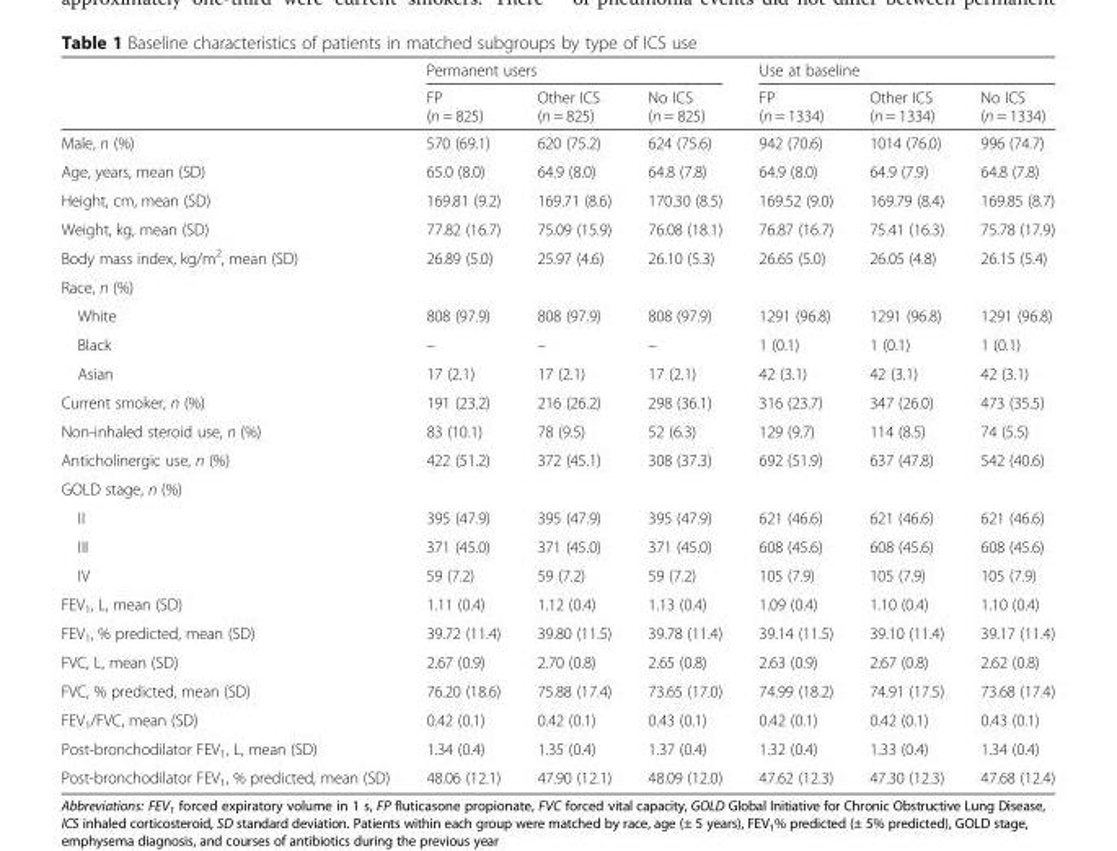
<table><thead><tr><td rowspan="2"></td><td colspan="3">Permanent users</td><td colspan="3">Use at baseline</td></tr><tr><td>FP (n = 825)</td><td>Other ICS (n = 825)</td><td>No ICS (n = 825)</td><td>FP (n = 1334)</td><td>Other ICS (n = 1334)</td><td>No ICS (n = 1334)</td></tr></thead><tbody><tr><td>Male, n (%)</td><td>570 (69.1)</td><td>620 (75.2)</td><td>624 (75.6)</td><td>942 (70.6)</td><td>1014 (76.0)</td><td>996 (74.7)</td></tr><tr><td>Age, years, mean (SD)</td><td>65.0 (8.0)</td><td>64.9 (8.0)</td><td>64.8 (7.8)</td><td>64.9 (8.0)</td><td>64.9 (7.9)</td><td>64.8 (7.8)</td></tr><tr><td>Height, cm, mean (SD)</td><td>169.81 (9.2)</td><td>169.71 (8.6)</td><td>170.30 (8.5)</td><td>169.52 (9.0)</td><td>169.79 (8.4)</td><td>169.85 (8.7)</td></tr><tr><td>Weight, kg, mean (SD)</td><td>77.82 (16.7)</td><td>75.09 (15.9)</td><td>76.08 (18.1)</td><td>76.87 (16.7)</td><td>75.41 (16.3)</td><td>75.78 (17.9)</td></tr><tr><td>Body mass index, kg/m<sup>2</sup>, mean (SD)</td><td>26.89 (5.0)</td><td>25.97 (4.6)</td><td>26.10 (5.3)</td><td>26.65 (5.0)</td><td>26.05 (4.8)</td><td>26.15 (5.4)</td></tr><tr><td colspan="7">Race, n (%)</td></tr><tr><td>White</td><td>808 (97.9)</td><td>808 (97.9)</td><td>808 (97.9)</td><td>1291 (96.8)</td><td>1291 (96.8)</td><td>1291 (96.8)</td></tr><tr><td>Black</td><td>–</td><td>–</td><td>–</td><td>1 (0.1)</td><td>1 (0.1)</td><td>1 (0.1)</td></tr><tr><td>Asian</td><td>17 (2.1)</td><td>17 (2.1)</td><td>17 (2.1)</td><td>42 (3.1)</td><td>42 (3.1)</td><td>42 (3.1)</td></tr><tr><td>Current smoker, n (%)</td><td>191 (23.2)</td><td>216 (26.2)</td><td>298 (36.1)</td><td>316 (23.7)</td><td>347 (26.0)</td><td>473 (35.5)</td></tr><tr><td>Non-inhaled steroid use, n (%)</td><td>83 (10.1)</td><td>78 (9.5)</td><td>52 (6.3)</td><td>129 (9.7)</td><td>114 (8.5)</td><td>74 (5.5)</td></tr><tr><td>Anticholinergic use, n (%)</td><td>422 (51.2)</td><td>372 (45.1)</td><td>308 (37.3)</td><td>692 (51.9)</td><td>637 (47.8)</td><td>542 (40.6)</td></tr><tr><td colspan="7">GOLD stage, n (%)</td></tr><tr><td>II</td><td>395 (47.9)</td><td>395 (47.9)</td><td>395 (47.9)</td><td>621 (46.6)</td><td>621 (46.6)</td><td>621 (46.6)</td></tr><tr><td>III</td><td>371 (45.0)</td><td>371 (45.0)</td><td>371 (45.0)</td><td>608 (45.6)</td><td>608 (45.6)</td><td>608 (45.6)</td></tr><tr><td>IV</td><td>59 (7.2)</td><td>59 (7.2)</td><td>59 (7.2)</td><td>105 (7.9)</td><td>105 (7.9)</td><td>105 (7.9)</td></tr><tr><td>FEV<sub>1</sub>, L, mean (SD)</td><td>1.11 (0.4)</td><td>1.12 (0.4)</td><td>1.13 (0.4)</td><td>1.09 (0.4)</td><td>1.10 (0.4)</td><td>1.10 (0.4)</td></tr><tr><td>FEV<sub>1</sub>, % predicted, mean (SD)</td><td>39.72 (11.4)</td><td>39.80 (11.5)</td><td>39.78 (11.4)</td><td>39.14 (11.5)</td><td>39.10 (11.4)</td><td>39.17 (11.4)</td></tr><tr><td>FVC, L, mean (SD)</td><td>2.67 (0.9)</td><td>2.70 (0.8)</td><td>2.65 (0.8)</td><td>2.63 (0.9)</td><td>2.67 (0.8)</td><td>2.62 (0.8)</td></tr><tr><td>FVC, % predicted, mean (SD)</td><td>76.20 (18.6)</td><td>75.88 (17.4)</td><td>73.65 (17.0)</td><td>74.99 (18.2)</td><td>74.91 (17.5)</td><td>73.68 (17.4)</td></tr><tr><td>FEV<sub>1</sub>/FVC, mean (SD)</td><td>0.42 (0.1)</td><td>0.42 (0.1)</td><td>0.43 (0.1)</td><td>0.42 (0.1)</td><td>0.42 (0.1)</td><td>0.43 (0.1)</td></tr><tr><td>Post-bronchodilator FEV<sub>1</sub>, L, mean (SD)</td><td>1.34 (0.4)</td><td>1.35 (0.4)</td><td>1.37 (0.4)</td><td>1.32 (0.4)</td><td>1.33 (0.4)</td><td>1.34 (0.4)</td></tr><tr><td>Post-bronchodilator FEV<sub>1</sub>, % predicted, mean (SD)</td><td>48.06 (12.1)</td><td>47.90 (12.1)</td><td>48.09 (12.0)</td><td>47.62 (12.3)</td><td>47.30 (12.3)</td><td>47.68 (12.4)</td></tr></tbody></table>